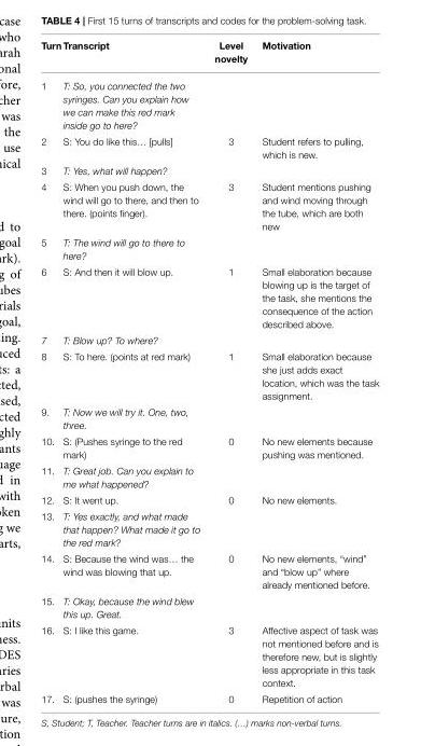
<table><thead><tr><td>Turn</td><td>Transcript</td><td>Level novelty</td><td>Motivation</td></tr></thead><tbody><tr><td>1</td><td>T: So, you connected the two syringes. Can you explain how we can make this red mark inside go to here?</td><td></td><td></td></tr><tr><td>2</td><td>S: You do like this… [pulls]</td><td>3</td><td>Student refers to pulling, which is new.</td></tr><tr><td>3</td><td>T: Yes, what will happen?</td><td></td><td></td></tr><tr><td>4</td><td>S: When you push down, the wind will go to there, and then to there. (points finger).</td><td>3</td><td>Student mentions pushing and wind moving through the tube, which are both new</td></tr><tr><td>5</td><td>T: The wind will go to there to here?</td><td></td><td></td></tr><tr><td>6</td><td>S: And then it will blow up.</td><td>1</td><td>Small elaboration because blowing up is the target of the task, she mentions the consequence of the action described above.</td></tr><tr><td>7</td><td>T: Blow up? To where?</td><td></td><td></td></tr><tr><td>8</td><td>S: To here. (points at red mark)</td><td>1</td><td>Small elaboration because she just adds exact location, which was the task assignment.</td></tr><tr><td>9.</td><td>T: Now we will try it. One, two, three.</td><td></td><td></td></tr><tr><td>10.</td><td>S: (Pushes syringe to the red mark)</td><td>0</td><td>No new elements because pushing was mentioned.</td></tr><tr><td>11.</td><td>T: Great job. Can you explain to me what happened?</td><td></td><td></td></tr><tr><td>12.</td><td>S: It went up.</td><td>0</td><td>No new elements.</td></tr><tr><td>13.</td><td>T: Yes exactly, and what made that happen? What made it go to the red mark?</td><td></td><td></td></tr><tr><td>14.</td><td>S: Because the wind was… the wind was blowing that up.</td><td>0</td><td>No new elements, “wind” and “blow up” where already mentioned before.</td></tr><tr><td>15.</td><td>T: Okay, because the wind blew this up. Great.</td><td></td><td></td></tr><tr><td>16.</td><td>S: I like this game.</td><td>3</td><td>Affective aspect of task was not mentioned before and is therefore new, but is slightly less appropriate in this task context.</td></tr><tr><td>17.</td><td>S: (pushes the syringe)</td><td>0</td><td>Repetition of action</td></tr></tbody></table>